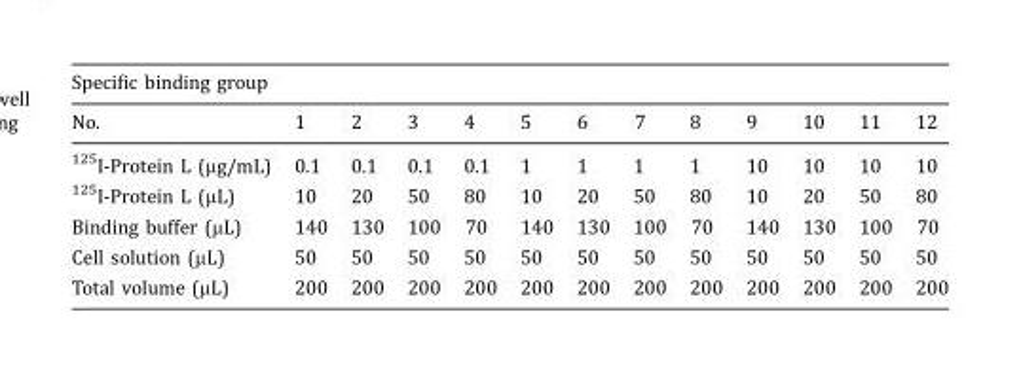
<table><thead><tr><td colspan="13">Specific binding group</td></tr><tr><td>No.</td><td>1</td><td>2</td><td>3</td><td>4</td><td>5</td><td>6</td><td>7</td><td>8</td><td>9</td><td>10</td><td>11</td><td>12</td></tr></thead><tbody><tr><td><sup>125</sup>I-Protein L (μg/mL)</td><td>0.1</td><td>0.1</td><td>0.1</td><td>0.1</td><td>1</td><td>1</td><td>1</td><td>1</td><td>10</td><td>10</td><td>10</td><td>10</td></tr><tr><td><sup>125</sup>I-Protein L (μL)</td><td>10</td><td>20</td><td>50</td><td>80</td><td>10</td><td>20</td><td>50</td><td>80</td><td>10</td><td>20</td><td>50</td><td>80</td></tr><tr><td>Binding buffer (μL)</td><td>140</td><td>130</td><td>100</td><td>70</td><td>140</td><td>130</td><td>100</td><td>70</td><td>140</td><td>130</td><td>100</td><td>70</td></tr><tr><td>Cell solution (μL)</td><td>50</td><td>50</td><td>50</td><td>50</td><td>50</td><td>50</td><td>50</td><td>50</td><td>50</td><td>50</td><td>50</td><td>50</td></tr><tr><td>Total volume (μL)</td><td>200</td><td>200</td><td>200</td><td>200</td><td>200</td><td>200</td><td>200</td><td>200</td><td>200</td><td>200</td><td>200</td><td>200</td></tr></tbody></table>